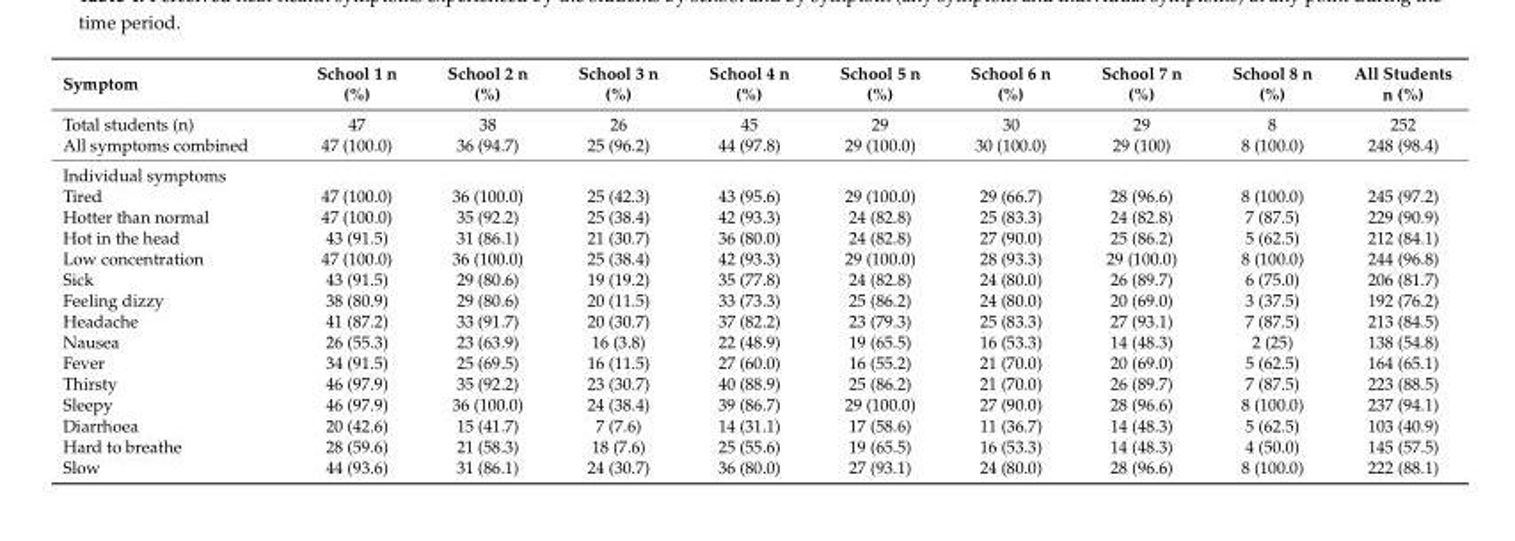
<table><thead><tr><td>Symptom</td><td>School 1 n (%)</td><td>School 2 n (%)</td><td>School 3 n (%)</td><td>School 4 n (%)</td><td>School 5 n (%)</td><td>School 6 n (%)</td><td>School 7 n (%)</td><td>School 8 n (%)</td><td>All Students n (%)</td></tr></thead><tbody><tr><td>Total students (n)</td><td>47</td><td>38</td><td>26</td><td>45</td><td>29</td><td>30</td><td>29</td><td>8</td><td>252</td></tr><tr><td>All symptoms combined</td><td>47 (100.0)</td><td>36 (94.7)</td><td>25 (96.2)</td><td>44 (97.8)</td><td>29 (100.0)</td><td>30 (100.0)</td><td>29 (100)</td><td>8 (100.0)</td><td>248 (98.4)</td></tr><tr><td colspan="10">Individual symptoms</td></tr><tr><td>Tired</td><td>47 (100.0)</td><td>36 (100.0)</td><td>25 (42.3)</td><td>43 (95.6)</td><td>29 (100.0)</td><td>29 (66.7)</td><td>28 (96.6)</td><td>8 (100.0)</td><td>245 (97.2)</td></tr><tr><td>Hotter than normal</td><td>47 (100.0)</td><td>35 (92.2)</td><td>25 (38.4)</td><td>42 (93.3)</td><td>24 (82.8)</td><td>25 (83.3)</td><td>24 (82.8)</td><td>7 (87.5)</td><td>229 (90.9)</td></tr><tr><td>Hot in the head</td><td>43 (91.5)</td><td>31 (86.1)</td><td>21 (30.7)</td><td>36 (80.0)</td><td>24 (82.8)</td><td>27 (90.0)</td><td>25 (86.2)</td><td>5 (62.5)</td><td>212 (84.1)</td></tr><tr><td>Low concentration</td><td>47 (100.0)</td><td>36 (100.0)</td><td>25 (38.4)</td><td>42 (93.3)</td><td>29 (100.0)</td><td>28 (93.3)</td><td>29 (100.0)</td><td>8 (100.0)</td><td>244 (96.8)</td></tr><tr><td>Sick</td><td>43 (91.5)</td><td>29 (80.6)</td><td>19 (19.2)</td><td>35 (77.8)</td><td>24 (82.8)</td><td>24 (80.0)</td><td>26 (89.7)</td><td>6 (75.0)</td><td>206 (81.7)</td></tr><tr><td>Feeling dizzy</td><td>38 (80.9)</td><td>29 (80.6)</td><td>20 (11.5)</td><td>33 (73.3)</td><td>25 (86.2)</td><td>24 (80.0)</td><td>20 (69.0)</td><td>3 (37.5)</td><td>192 (76.2)</td></tr><tr><td>Headache</td><td>41 (87.2)</td><td>33 (91.7)</td><td>20 (30.7)</td><td>37 (82.2)</td><td>23 (79.3)</td><td>25 (83.3)</td><td>27 (93.1)</td><td>7 (87.5)</td><td>213 (84.5)</td></tr><tr><td>Nausea</td><td>26 (55.3)</td><td>23 (63.9)</td><td>16 (3.8)</td><td>22 (48.9)</td><td>19 (65.5)</td><td>16 (53.3)</td><td>14 (48.3)</td><td>2 (25)</td><td>138 (54.8)</td></tr><tr><td>Fever</td><td>34 (91.5)</td><td>25 (69.5)</td><td>16 (11.5)</td><td>27 (60.0)</td><td>16 (55.2)</td><td>21 (70.0)</td><td>20 (69.0)</td><td>5 (62.5)</td><td>164 (65.1)</td></tr><tr><td>Thirsty</td><td>46 (97.9)</td><td>35 (92.2)</td><td>23 (30.7)</td><td>40 (88.9)</td><td>25 (86.2)</td><td>21 (70.0)</td><td>26 (89.7)</td><td>7 (87.5)</td><td>223 (88.5)</td></tr><tr><td>Sleepy</td><td>46 (97.9)</td><td>36 (100.0)</td><td>24 (38.4)</td><td>39 (86.7)</td><td>29 (100.0)</td><td>27 (90.0)</td><td>28 (96.6)</td><td>8 (100.0)</td><td>237 (94.1)</td></tr><tr><td>Diarrhoea</td><td>20 (42.6)</td><td>15 (41.7)</td><td>7 (7.6)</td><td>14 (31.1)</td><td>17 (58.6)</td><td>11 (36.7)</td><td>14 (48.3)</td><td>5 (62.5)</td><td>103 (40.9)</td></tr><tr><td>Hard to breathe</td><td>28 (59.6)</td><td>21 (58.3)</td><td>18 (7.6)</td><td>25 (55.6)</td><td>19 (65.5)</td><td>16 (53.3)</td><td>14 (48.3)</td><td>4 (50.0)</td><td>145 (57.5)</td></tr><tr><td>Slow</td><td>44 (93.6)</td><td>31 (86.1)</td><td>24 (30.7)</td><td>36 (80.0)</td><td>27 (93.1)</td><td>24 (80.0)</td><td>28 (96.6)</td><td>8 (100.0)</td><td>222 (88.1)</td></tr></tbody></table>